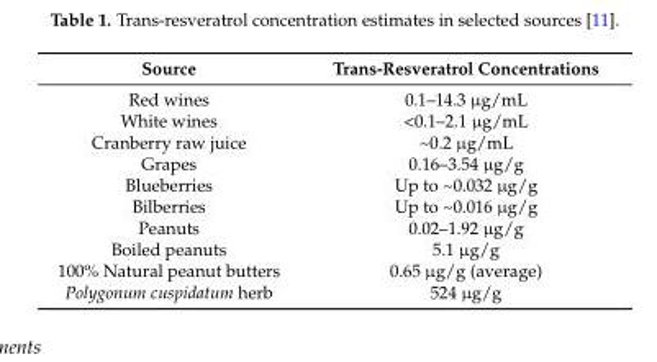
<table><thead><tr><td>Source</td><td>Trans-Resveratrol Concentrations</td></tr></thead><tbody><tr><td>Red wines</td><td>0.1–14.3 µg/mL</td></tr><tr><td>White wines</td><td>&lt;0.1–2.1 µg/mL</td></tr><tr><td>Cranberry raw juice</td><td>~0.2 µg/mL</td></tr><tr><td>Grapes</td><td>0.16–3.54 µg/g</td></tr><tr><td>Blueberries</td><td>Up to ~0.032 µg/g</td></tr><tr><td>Bilberries</td><td>Up to ~0.016 µg/g</td></tr><tr><td>Peanuts</td><td>0.02–1.92 µg/g</td></tr><tr><td>Boiled peanuts</td><td>5.1 µg/g</td></tr><tr><td>100% Natural peanut butters</td><td>0.65 µg/g (average)</td></tr><tr><td>Polygonum cuspidatum herb</td><td>524 µg/g</td></tr></tbody></table>